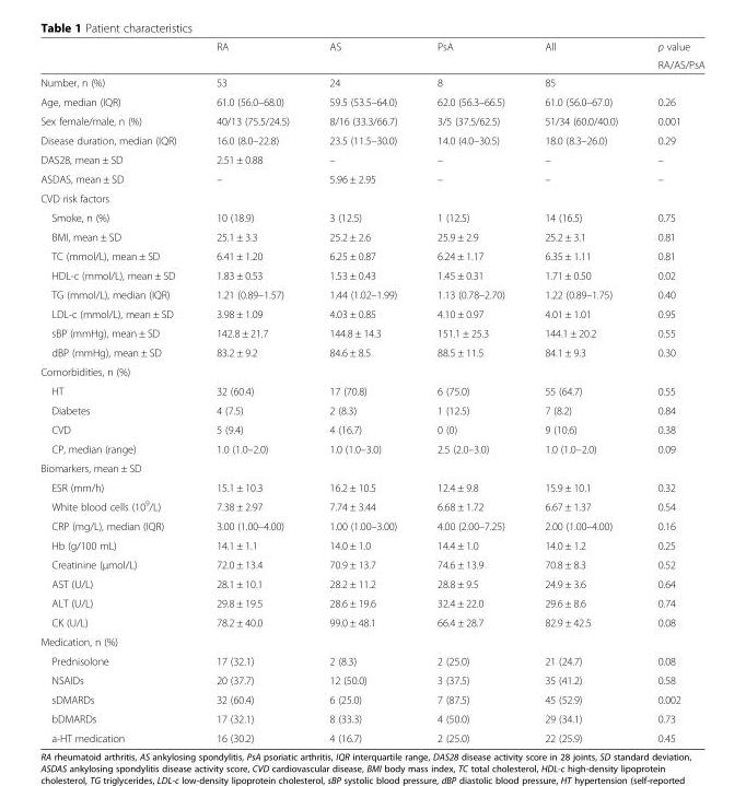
<table><thead><tr><td rowspan="2"></td><td rowspan="2">RA</td><td rowspan="2">AS</td><td rowspan="2">PsA</td><td rowspan="2">All</td><td rowspan="2">p value RA/AS/PsA</td></tr><tr></tr></thead><tbody><tr><td>Number, n (%)</td><td>53</td><td>24</td><td>8</td><td>85</td><td></td></tr><tr><td>Age, median (IQR)</td><td>61.0 (56.0–68.0)</td><td>59.5 (53.5–64.0)</td><td>62.0 (56.3–66.5)</td><td>61.0 (56.0–67.0)</td><td>0.26</td></tr><tr><td>Sex female/male, n (%)</td><td>40/13 (75.5/24.5)</td><td>8/16 (33.3/66.7)</td><td>3/5 (37.5/62.5)</td><td>51/34 (60.0/40.0)</td><td>0.001</td></tr><tr><td>Disease duration, median (IQR)</td><td>16.0 (8.0–22.8)</td><td>23.5 (11.5–30.0)</td><td>14.0 (4.0–30.5)</td><td>18.0 (8.3–26.0)</td><td>0.29</td></tr><tr><td>DAS28, mean ± SD</td><td>2.51 ± 0.88</td><td>–</td><td>–</td><td>–</td><td>–</td></tr><tr><td>ASDAS, mean ± SD</td><td>–</td><td>5.96 ± 2.95</td><td>–</td><td>–</td><td>–</td></tr><tr><td colspan="6">CVD risk factors</td></tr><tr><td>Smoke, n (%)</td><td>10 (18.9)</td><td>3 (12.5)</td><td>1 (12.5)</td><td>14 (16.5)</td><td>0.75</td></tr><tr><td>BMI, mean ± SD</td><td>25.1 ± 3.3</td><td>25.2 ± 2.6</td><td>25.9 ± 2.9</td><td>25.2 ± 3.1</td><td>0.81</td></tr><tr><td>TC (mmol/L), mean ± SD</td><td>6.41 ± 1.20</td><td>6.25 ± 0.87</td><td>6.24 ± 1.17</td><td>6.35 ± 1.11</td><td>0.81</td></tr><tr><td>HDL-c (mmol/L), mean ± SD</td><td>1.83 ± 0.53</td><td>1.53 ± 0.43</td><td>1.45 ± 0.31</td><td>1.71 ± 0.50</td><td>0.02</td></tr><tr><td>TG (mmol/L), median (IQR)</td><td>1.21 (0.89–1.57)</td><td>1.44 (1.02–1.99)</td><td>1.13 (0.78–2.70)</td><td>1.22 (0.89–1.75)</td><td>0.40</td></tr><tr><td>LDL-c (mmol/L), mean ± SD</td><td>3.98 ± 1.09</td><td>4.03 ± 0.85</td><td>4.10 ± 0.97</td><td>4.01 ± 1.01</td><td>0.95</td></tr><tr><td>sBP (mmHg), mean ± SD</td><td>142.8 ± 21.7</td><td>144.8 ± 14.3</td><td>151.1 ± 25.3</td><td>144.1 ± 20.2</td><td>0.55</td></tr><tr><td>dBP (mmHg), mean ± SD</td><td>83.2 ± 9.2</td><td>84.6 ± 8.5</td><td>88.5 ± 11.5</td><td>84.1 ± 9.3</td><td>0.30</td></tr><tr><td colspan="6">Comorbidities, n (%)</td></tr><tr><td>HT</td><td>32 (60.4)</td><td>17 (70.8)</td><td>6 (75.0)</td><td>55 (64.7)</td><td>0.55</td></tr><tr><td>Diabetes</td><td>4 (7.5)</td><td>2 (8.3)</td><td>1 (12.5)</td><td>7 (8.2)</td><td>0.84</td></tr><tr><td>CVD</td><td>5 (9.4)</td><td>4 (16.7)</td><td>0 (0)</td><td>9 (10.6)</td><td>0.38</td></tr><tr><td>CP, median (range)</td><td>1.0 (1.0–2.0)</td><td>1.0 (1.0–3.0)</td><td>2.5 (2.0–3.0)</td><td>1.0 (1.0–2.0)</td><td>0.09</td></tr><tr><td colspan="6">Biomarkers, mean ± SD</td></tr><tr><td>ESR (mm/h)</td><td>15.1 ± 10.3</td><td>16.2 ± 10.5</td><td>12.4 ± 9.8</td><td>15.9 ± 10.1</td><td>0.32</td></tr><tr><td>White blood cells (10<sup>9</sup>/L)</td><td>7.38 ± 2.97</td><td>7.74 ± 3.44</td><td>6.68 ± 1.72</td><td>6.67 ± 1.37</td><td>0.54</td></tr><tr><td>CRP (mg/L), median (IQR)</td><td>3.00 (1.00–4.00)</td><td>1.00 (1.00–3.00)</td><td>4.00 (2.00–7.25)</td><td>2.00 (1.00–4.00)</td><td>0.16</td></tr><tr><td>Hb (g/100 mL)</td><td>14.1 ± 1.1</td><td>14.0 ± 1.0</td><td>14.4 ± 1.0</td><td>14.0 ± 1.2</td><td>0.25</td></tr><tr><td>Creatinine (μmol/L)</td><td>72.0 ± 13.4</td><td>70.9 ± 13.7</td><td>74.6 ± 13.9</td><td>70.8 ± 8.3</td><td>0.52</td></tr><tr><td>AST (U/L)</td><td>28.1 ± 10.1</td><td>28.2 ± 11.2</td><td>28.8 ± 9.5</td><td>24.9 ± 3.6</td><td>0.64</td></tr><tr><td>ALT (U/L)</td><td>29.8 ± 19.5</td><td>28.6 ± 19.6</td><td>32.4 ± 22.0</td><td>29.6 ± 8.6</td><td>0.74</td></tr><tr><td>CK (U/L)</td><td>78.2 ± 40.0</td><td>99.0 ± 48.1</td><td>66.4 ± 28.7</td><td>82.9 ± 42.5</td><td>0.08</td></tr><tr><td colspan="6">Medication, n (%)</td></tr><tr><td>Prednisolone</td><td>17 (32.1)</td><td>2 (8.3)</td><td>2 (25.0)</td><td>21 (24.7)</td><td>0.08</td></tr><tr><td>NSAIDs</td><td>20 (37.7)</td><td>12 (50.0)</td><td>3 (37.5)</td><td>35 (41.2)</td><td>0.58</td></tr><tr><td>sDMARDs</td><td>32 (60.4)</td><td>6 (25.0)</td><td>7 (87.5)</td><td>45 (52.9)</td><td>0.002</td></tr><tr><td>bDMARDs</td><td>17 (32.1)</td><td>8 (33.3)</td><td>4 (50.0)</td><td>29 (34.1)</td><td>0.73</td></tr><tr><td>a-HT medication</td><td>16 (30.2)</td><td>4 (16.7)</td><td>2 (25.0)</td><td>22 (25.9)</td><td>0.45</td></tr></tbody></table>